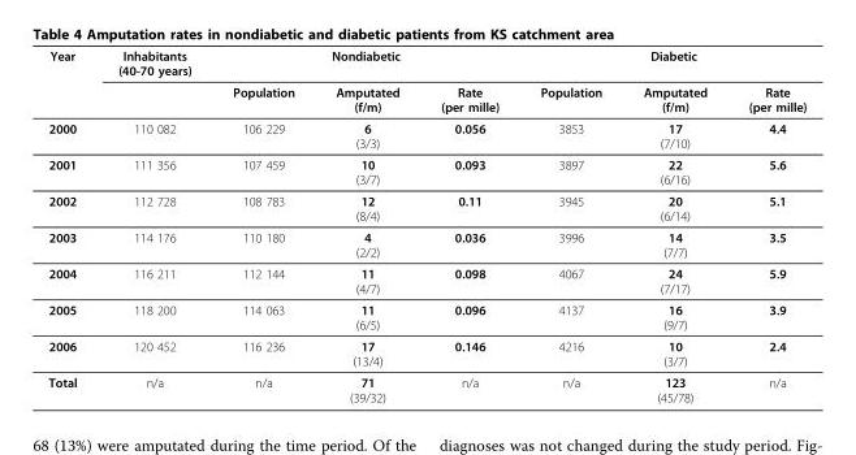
<table><thead><tr><td rowspan="2">Year</td><td rowspan="2">Inhabitants (40-70 years)</td><td colspan="3">Nondiabetic</td><td colspan="3">Diabetic</td></tr><tr><td>Population</td><td>Amputated (f/m)</td><td>Rate (per mille)</td><td>Population</td><td>Amputated (f/m)</td><td>Rate (per mille)</td></tr></thead><tbody><tr><td>2000</td><td>110 082</td><td>106 229</td><td>6 (3/3)</td><td>0.056</td><td>3853</td><td>17 (7/10)</td><td>4.4</td></tr><tr><td>2001</td><td>111 356</td><td>107 459</td><td>10 (3/7)</td><td>0.093</td><td>3897</td><td>22 (6/16)</td><td>5.6</td></tr><tr><td>2002</td><td>112 728</td><td>108 783</td><td>12 (8/4)</td><td>0.11</td><td>3945</td><td>20 (6/14)</td><td>5.1</td></tr><tr><td>2003</td><td>114 176</td><td>110 180</td><td>4 (2/2)</td><td>0.036</td><td>3996</td><td>14 (7/7)</td><td>3.5</td></tr><tr><td>2004</td><td>116 211</td><td>112 144</td><td>11 (4/7)</td><td>0.098</td><td>4067</td><td>24 (7/17)</td><td>5.9</td></tr><tr><td>2005</td><td>118 200</td><td>114 063</td><td>11 (6/5)</td><td>0.096</td><td>4137</td><td>16 (9/7)</td><td>3.9</td></tr><tr><td>2006</td><td>120 452</td><td>116 236</td><td>17 (13/4)</td><td>0.146</td><td>4216</td><td>10 (3/7)</td><td>2.4</td></tr><tr><td>Total</td><td>n/a</td><td>n/a</td><td>71 (39/32)</td><td>n/a</td><td>n/a</td><td>123 (45/78)</td><td>n/a</td></tr></tbody></table>